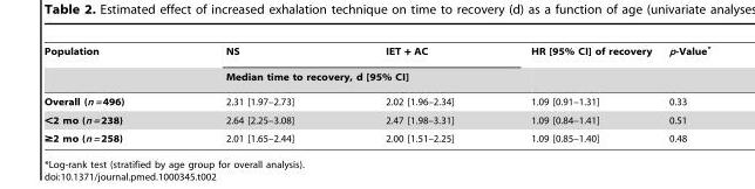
<table><thead><tr><td rowspan="2">Population</td><td>NS</td><td>IET + AC</td><td rowspan="2">HR [95% CI] of recovery</td><td rowspan="2">p-Value*</td></tr><tr><td colspan="2">Median time to recovery, d [95% CI]</td></tr></thead><tbody><tr><td>Overall (n = 496)</td><td>2.31 [1.97–2.73]</td><td>2.02 [1.96–2.34]</td><td>1.09 [0.91–1.31]</td><td>0.33</td></tr><tr><td>&lt;2 mo (n = 238)</td><td>2.64 [2.25–3.08]</td><td>2.47 [1.98–3.31]</td><td>1.09 [0.84–1.41]</td><td>0.51</td></tr><tr><td>≥2 mo (n = 258)</td><td>2.01 [1.65–2.44]</td><td>2.00 [1.51–2.25]</td><td>1.09 [0.85–1.40]</td><td>0.48</td></tr></tbody></table>